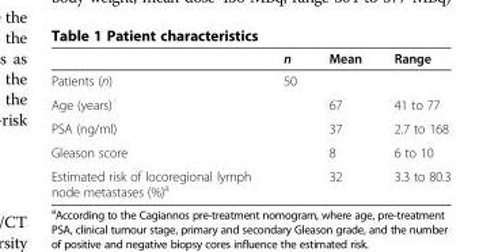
<table><thead><tr><td></td><td>n</td><td>Mean</td><td>Range</td></tr></thead><tbody><tr><td>Patients (n)</td><td>50</td><td></td><td></td></tr><tr><td>Age (years)</td><td></td><td>67</td><td>41 to 77</td></tr><tr><td>PSA (ng/ml)</td><td></td><td>37</td><td>2.7 to 168</td></tr><tr><td>Gleason score</td><td></td><td>8</td><td>6 to 10</td></tr><tr><td>Estimated risk of locoregional lymph node metastases (%)<sup>a</sup></td><td></td><td>32</td><td>3.3 to 80.3</td></tr></tbody></table>